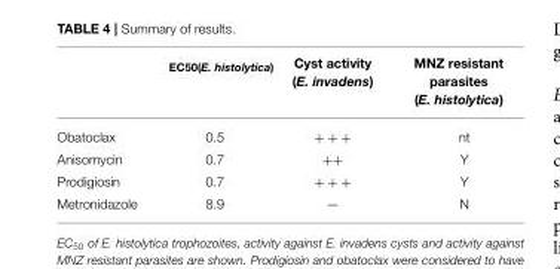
<table><thead><tr><td></td><td>EC50(E. histolytica)</td><td>Cyst activity (E. invadens)</td><td>MNZ resistant parasites (E. histolytica)</td></tr></thead><tbody><tr><td>Obatoclax</td><td>0.5</td><td>+ + +</td><td>nt</td></tr><tr><td>Anisomycin</td><td>0.7</td><td>++</td><td>Y</td></tr><tr><td>Prodigiosin</td><td>0.7</td><td>+ + +</td><td>Y</td></tr><tr><td>Metronidazole</td><td>8.9</td><td>—</td><td>N</td></tr></tbody></table>